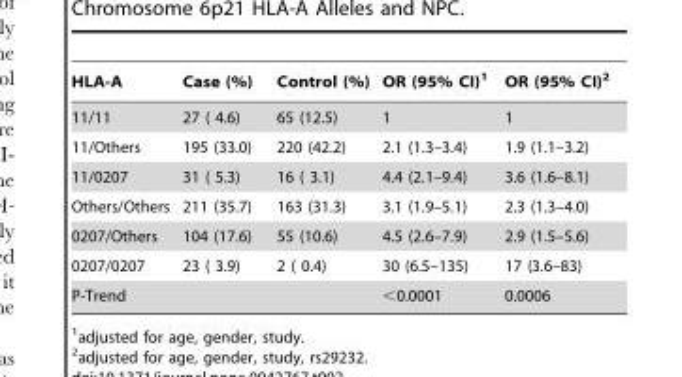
<table><thead><tr><td>HLA-A</td><td>Case (%)</td><td>Control (%)</td><td>OR (95% CI)<sup>1</sup></td><td>OR (95% CI)<sup>2</sup></td></tr></thead><tbody><tr><td>11/11</td><td>27 ( 4.6)</td><td>65 (12.5)</td><td>1</td><td>1</td></tr><tr><td>11/Others</td><td>195 (33.0)</td><td>220 (42.2)</td><td>2.1 (1.3–3.4)</td><td>1.9 (1.1–3.2)</td></tr><tr><td>11/0207</td><td>31 ( 5.3)</td><td>16 ( 3.1)</td><td>4.4 (2.1–9.4)</td><td>3.6 (1.6–8.1)</td></tr><tr><td>Others/Others</td><td>211 (35.7)</td><td>163 (31.3)</td><td>3.1 (1.9–5.1)</td><td>2.3 (1.3–4.0)</td></tr><tr><td>0207/Others</td><td>104 (17.6)</td><td>55 (10.6)</td><td>4.5 (2.6–7.9)</td><td>2.9 (1.5–5.6)</td></tr><tr><td>0207/0207</td><td>23 ( 3.9)</td><td>2 ( 0.4)</td><td>30 (6.5–135)</td><td>17 (3.6–83)</td></tr><tr><td>P-Trend</td><td></td><td></td><td>&lt;0.0001</td><td>0.0006</td></tr></tbody></table>